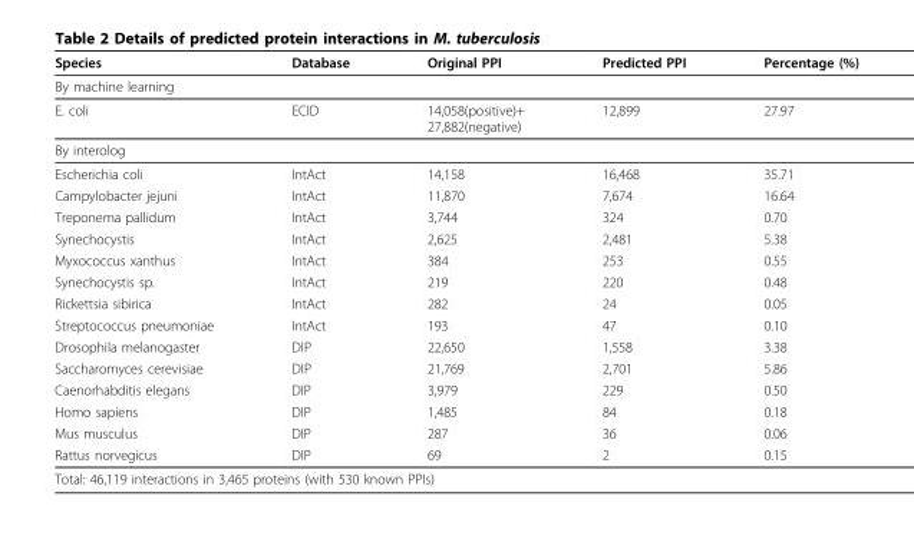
<table><thead><tr><td>Species</td><td>Database</td><td>Original PPI</td><td>Predicted PPI</td><td>Percentage (%)</td></tr></thead><tbody><tr><td colspan="5">By machine learning</td></tr><tr><td>E. coli</td><td>ECID</td><td>14,058(positive)+ 27,882(negative)</td><td>12,899</td><td>27.97</td></tr><tr><td colspan="5">By interolog</td></tr><tr><td>Escherichia coli</td><td>IntAct</td><td>14,158</td><td>16,468</td><td>35.71</td></tr><tr><td>Campylobacter jejuni</td><td>IntAct</td><td>11,870</td><td>7,674</td><td>16.64</td></tr><tr><td>Treponema pallidum</td><td>IntAct</td><td>3,744</td><td>324</td><td>0.70</td></tr><tr><td>Synechocystis</td><td>IntAct</td><td>2,625</td><td>2,481</td><td>5.38</td></tr><tr><td>Myxococcus xanthus</td><td>IntAct</td><td>384</td><td>253</td><td>0.55</td></tr><tr><td>Synechocystis sp.</td><td>IntAct</td><td>219</td><td>220</td><td>0.48</td></tr><tr><td>Rickettsia sibirica</td><td>IntAct</td><td>282</td><td>24</td><td>0.05</td></tr><tr><td>Streptococcus pneumoniae</td><td>IntAct</td><td>193</td><td>47</td><td>0.10</td></tr><tr><td>Drosophila melanogaster</td><td>DIP</td><td>22,650</td><td>1,558</td><td>3.38</td></tr><tr><td>Saccharomyces cerevisiae</td><td>DIP</td><td>21,769</td><td>2,701</td><td>5.86</td></tr><tr><td>Caenorhabditis elegans</td><td>DIP</td><td>3,979</td><td>229</td><td>0.50</td></tr><tr><td>Homo sapiens</td><td>DIP</td><td>1,485</td><td>84</td><td>0.18</td></tr><tr><td>Mus musculus</td><td>DIP</td><td>287</td><td>36</td><td>0.06</td></tr><tr><td>Rattus norvegicus</td><td>DIP</td><td>69</td><td>2</td><td>0.15</td></tr><tr><td colspan="5">Total: 46,119 interactions in 3,465 proteins (with 530 known PPIs)</td></tr></tbody></table>